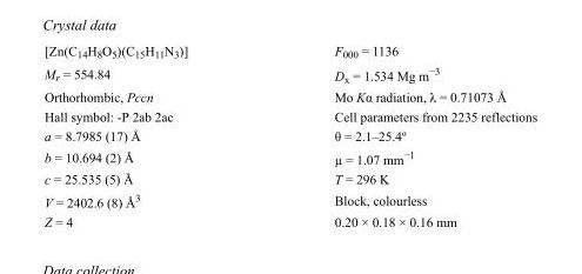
<table><tbody><tr><td>[Zn(C<sub>14</sub>H<sub>8</sub>O<sub>5</sub>)(C<sub>15</sub>H<sub>11</sub>N<sub>3</sub>)]</td><td>F000 = 1136</td></tr><tr><td>M<sub>r</sub> = 554.84</td><td>D<sub>x</sub> = 1.534 Mg m<sup>−3</sup></td></tr><tr><td>Orthorhombic, Pccn</td><td>Mo Kα radiation, λ = 0.71073 Å</td></tr><tr><td>Hall symbol: -P 2ab 2ac</td><td>Cell parameters from 2235 reflections</td></tr><tr><td>a = 8.7985 (17) Å</td><td>θ = 2.1–25.4º</td></tr><tr><td>b = 10.694 (2) Å</td><td>µ = 1.07 mm<sup>−1</sup></td></tr><tr><td>c = 25.535 (5) Å</td><td>T = 296 K</td></tr><tr><td>V = 2402.6 (8) Å<sup>3</sup></td><td>Block, colourless</td></tr><tr><td>Z = 4</td><td>0.20 × 0.18 × 0.16 mm</td></tr></tbody></table>